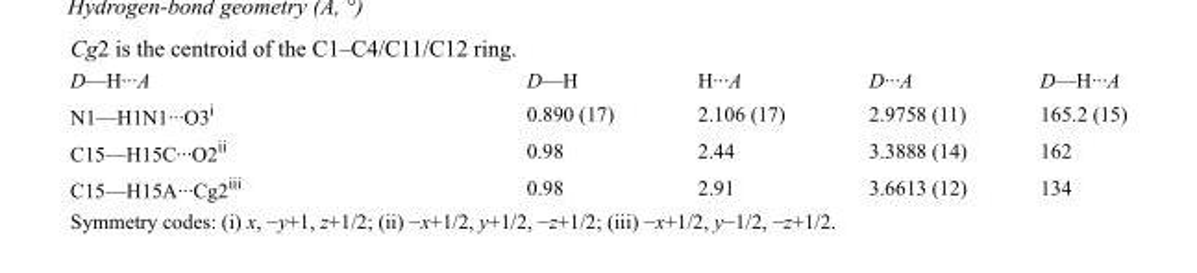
<table><tbody><tr><td>D—H···A</td><td>D—H</td><td>H···A</td><td>D···A</td><td>D—H···A</td></tr><tr><td>N1—H1N1···O3<sup>i</sup></td><td>0.890 (17)</td><td>2.106 (17)</td><td>2.9758 (11)</td><td>165.2 (15)</td></tr><tr><td>C15—H15C···O2<sup>ii</sup></td><td>0.98</td><td>2.44</td><td>3.3888 (14)</td><td>162</td></tr><tr><td>C15—H15A···Cg2<sup>iii</sup></td><td>0.98</td><td>2.91</td><td>3.6613 (12)</td><td>134</td></tr></tbody></table>